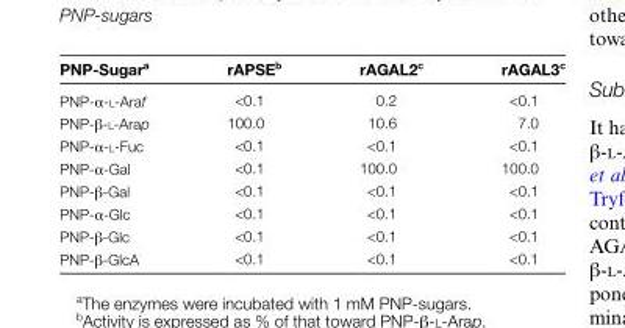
<table><thead><tr><td>PNP-Sugar<sup>a</sup></td><td>rAPSE<sup>b</sup></td><td>rAGAL2<sup>c</sup></td><td>rAGAL3<sup>c</sup></td></tr></thead><tbody><tr><td>PNP-α-l-Araf</td><td>&lt;0.1</td><td>0.2</td><td>&lt;0.1</td></tr><tr><td>PNP-β-l-Arap</td><td>100.0</td><td>10.6</td><td>7.0</td></tr><tr><td>PNP-α-l-Fuc</td><td>&lt;0.1</td><td>&lt;0.1</td><td>&lt;0.1</td></tr><tr><td>PNP-α-Gal</td><td>&lt;0.1</td><td>100.0</td><td>100.0</td></tr><tr><td>PNP-β-Gal</td><td>&lt;0.1</td><td>&lt;0.1</td><td>&lt;0.1</td></tr><tr><td>PNP-α-Glc</td><td>&lt;0.1</td><td>&lt;0.1</td><td>&lt;0.1</td></tr><tr><td>PNP-β-Glc</td><td>&lt;0.1</td><td>&lt;0.1</td><td>&lt;0.1</td></tr><tr><td>PNP-β-GlcA</td><td>&lt;0.1</td><td>&lt;0.1</td><td>&lt;0.1</td></tr></tbody></table>